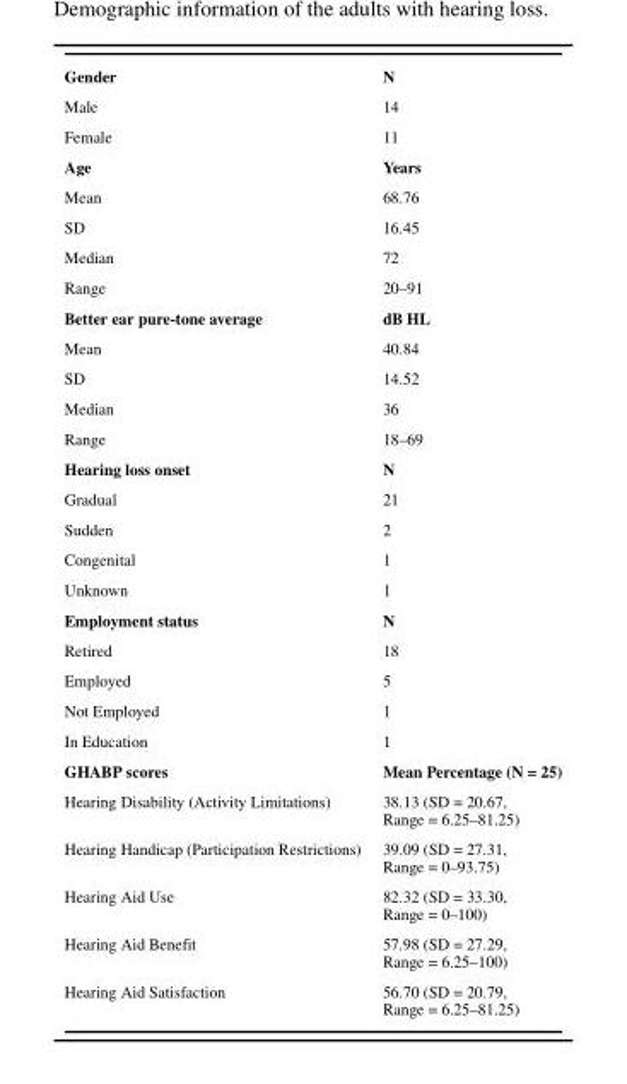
<table><tbody><tr><td>Gender</td><td>N</td></tr><tr><td>Male</td><td>14</td></tr><tr><td>Female</td><td>11</td></tr><tr><td>Age</td><td>Years</td></tr><tr><td>Mean</td><td>68.76</td></tr><tr><td>SD</td><td>16.45</td></tr><tr><td>Median</td><td>72</td></tr><tr><td>Range</td><td>20–91</td></tr><tr><td>Better ear pure-tone average</td><td>dB HL</td></tr><tr><td>Mean</td><td>40.84</td></tr><tr><td>SD</td><td>14.52</td></tr><tr><td>Median</td><td>36</td></tr><tr><td>Range</td><td>18–69</td></tr><tr><td>Hearing loss onset</td><td>N</td></tr><tr><td>Gradual</td><td>21</td></tr><tr><td>Sudden</td><td>2</td></tr><tr><td>Congenital</td><td>1</td></tr><tr><td>Unknown</td><td>1</td></tr><tr><td>Employment status</td><td>N</td></tr><tr><td>Retired</td><td>18</td></tr><tr><td>Employed</td><td>5</td></tr><tr><td>Not Employed</td><td>1</td></tr><tr><td>In Education</td><td>1</td></tr><tr><td>GHABP scores</td><td>Mean Percentage (N = 25)</td></tr><tr><td>Hearing Disability (Activity Limitations)</td><td>38.13 (SD = 20.67, Range = 6.25–81.25)</td></tr><tr><td>Hearing Handicap (Participation Restrictions)</td><td>39.09 (SD = 27.31, Range = 0–93.75)</td></tr><tr><td>Hearing Aid Use</td><td>82.32 (SD = 33.30, Range = 0–100)</td></tr><tr><td>Hearing Aid Benefit</td><td>57.98 (SD = 27.29, Range = 6.25–100)</td></tr><tr><td>Hearing Aid Satisfaction</td><td>56.70 (SD = 20.79, Range = 6.25–81.25)</td></tr></tbody></table>